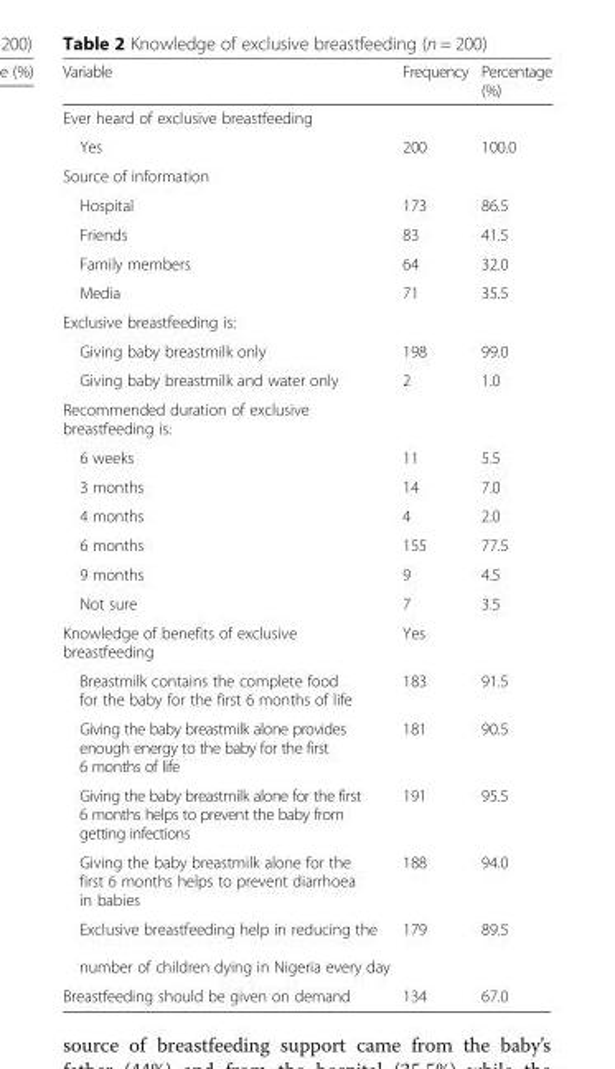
<table><thead><tr><td>Variable</td><td>Frequency</td><td>Percentage (%)</td></tr></thead><tbody><tr><td colspan="3">Ever heard of exclusive breastfeeding</td></tr><tr><td>Yes</td><td>200</td><td>100.0</td></tr><tr><td colspan="3">Source of information</td></tr><tr><td>Hospital</td><td>173</td><td>86.5</td></tr><tr><td>Friends</td><td>83</td><td>41.5</td></tr><tr><td>Family members</td><td>64</td><td>32.0</td></tr><tr><td>Media</td><td>71</td><td>35.5</td></tr><tr><td colspan="3">Exclusive breastfeeding is:</td></tr><tr><td>Giving baby breastmilk only</td><td>198</td><td>99.0</td></tr><tr><td>Giving baby breastmilk and water only</td><td>2</td><td>1.0</td></tr><tr><td colspan="3">Recommended duration of exclusive breastfeeding is:</td></tr><tr><td>6 weeks</td><td>11</td><td>5.5</td></tr><tr><td>3 months</td><td>14</td><td>7.0</td></tr><tr><td>4 months</td><td>4</td><td>2.0</td></tr><tr><td>6 months</td><td>155</td><td>77.5</td></tr><tr><td>9 months</td><td>9</td><td>4.5</td></tr><tr><td>Not sure</td><td>7</td><td>3.5</td></tr><tr><td>Knowledge of benefits of exclusive breastfeeding</td><td>Yes</td><td></td></tr><tr><td>Breastmilk contains the complete food for the baby for the first 6 months of life</td><td>183</td><td>91.5</td></tr><tr><td>Giving the baby breastmilk alone provides enough energy to the baby for the first 6 months of life</td><td>181</td><td>90.5</td></tr><tr><td>Giving the baby breastmilk alone for the first 6 months helps to prevent the baby from getting infections</td><td>191</td><td>95.5</td></tr><tr><td>Giving the baby breastmilk alone for the first 6 months helps to prevent diarrhoea in babies</td><td>188</td><td>94.0</td></tr><tr><td>Exclusive breastfeeding help in reducing the number of children dying in Nigeria every day</td><td>179</td><td>89.5</td></tr><tr><td>Breastfeeding should be given on demand</td><td>134</td><td>67.0</td></tr></tbody></table>